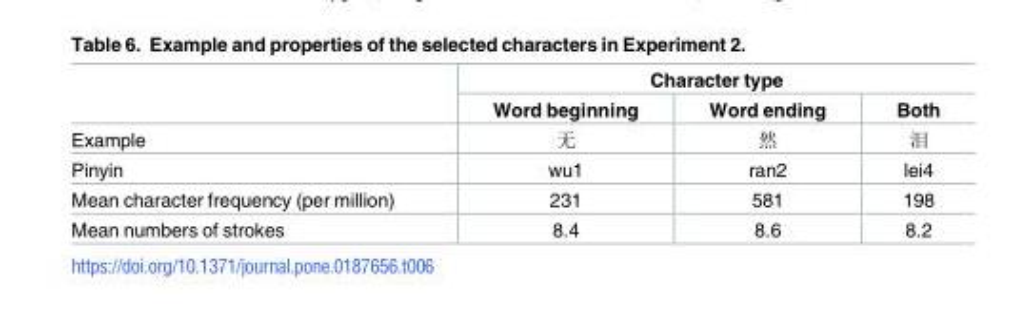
<table><thead><tr><td rowspan="2"></td><td colspan="3">Character type</td></tr><tr><td>Word beginning</td><td>Word ending</td><td>Both</td></tr></thead><tbody><tr><td>Example</td><td>无</td><td>然</td><td>泪</td></tr><tr><td>Pinyin</td><td>wu1</td><td>ran2</td><td>lei4</td></tr><tr><td>Mean character frequency (per million)</td><td>231</td><td>581</td><td>198</td></tr><tr><td>Mean numbers of strokes</td><td>8.4</td><td>8.6</td><td>8.2</td></tr></tbody></table>